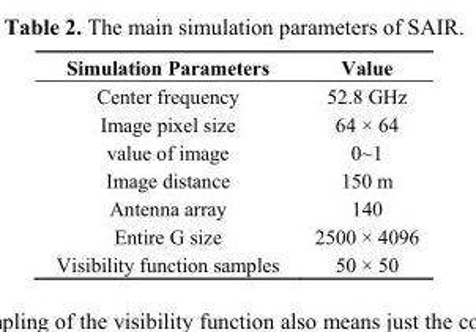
<table><thead><tr><td>Simulation Parameters</td><td>Value</td></tr></thead><tbody><tr><td>Center frequency</td><td>52.8 GHz</td></tr><tr><td>Image pixel size</td><td>64 × 64</td></tr><tr><td>value of image</td><td>0~1</td></tr><tr><td>Image distance</td><td>150 m</td></tr><tr><td>Antenna array</td><td>140</td></tr><tr><td>Entire G size</td><td>2500 × 4096</td></tr><tr><td>Visibility function samples</td><td>50 × 50</td></tr></tbody></table>